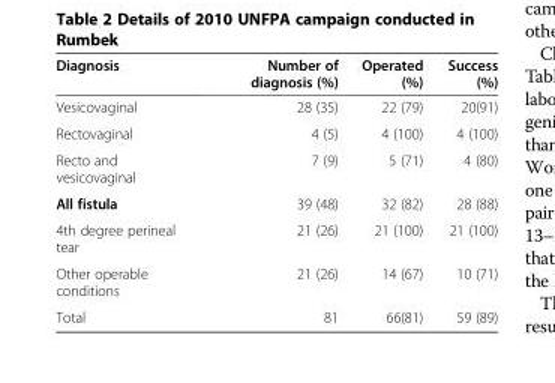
<table><thead><tr><td>Diagnosis</td><td>Number of diagnosis (%)</td><td>Operated (%)</td><td>Success (%)</td></tr></thead><tbody><tr><td>Vesicovaginal</td><td>28 (35)</td><td>22 (79)</td><td>20(91)</td></tr><tr><td>Rectovaginal</td><td>4 (5)</td><td>4 (100)</td><td>4 (100)</td></tr><tr><td>Recto and vesicovaginal</td><td>7 (9)</td><td>5 (71)</td><td>4 (80)</td></tr><tr><td>All fistula</td><td>39 (48)</td><td>32 (82)</td><td>28 (88)</td></tr><tr><td>4th degree perineal tear</td><td>21 (26)</td><td>21 (100)</td><td>21 (100)</td></tr><tr><td>Other operable conditions</td><td>21 (26)</td><td>14 (67)</td><td>10 (71)</td></tr><tr><td>Total</td><td>81</td><td>66(81)</td><td>59 (89)</td></tr></tbody></table>